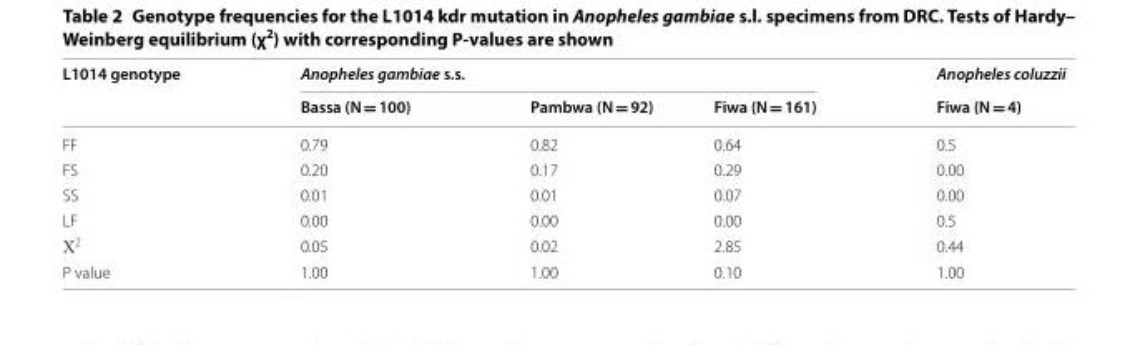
<table><thead><tr><td rowspan="2">L1014 genotype</td><td colspan="3">Anopheles gambiae s.s.</td><td rowspan="2">Anopheles coluzzii Fiwa (N = 4)</td></tr><tr><td>Bassa (N = 100)</td><td>Pambwa (N = 92)</td><td>Fiwa (N = 161)</td></tr></thead><tbody><tr><td>FF</td><td>0.79</td><td>0.82</td><td>0.64</td><td>0.5</td></tr><tr><td>FS</td><td>0.20</td><td>0.17</td><td>0.29</td><td>0.00</td></tr><tr><td>SS</td><td>0.01</td><td>0.01</td><td>0.07</td><td>0.00</td></tr><tr><td>LF</td><td>0.00</td><td>0.00</td><td>0.00</td><td>0.5</td></tr><tr><td>Χ<sup>2</sup></td><td>0.05</td><td>0.02</td><td>2.85</td><td>0.44</td></tr><tr><td>P value</td><td>1.00</td><td>1.00</td><td>0.10</td><td>1.00</td></tr></tbody></table>